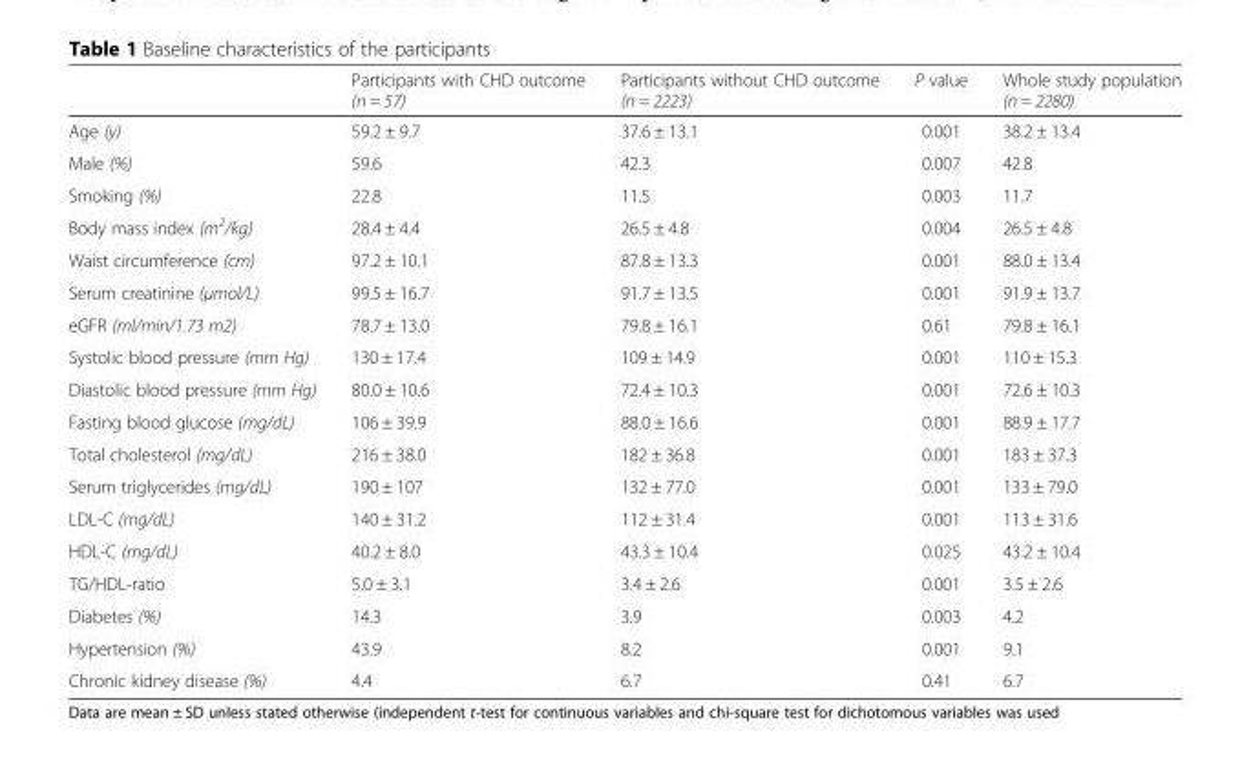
<table><thead><tr><td></td><td>Participants with CHD outcome (n = 57)</td><td>Participants without CHD outcome (n = 2223)</td><td>P value</td><td>Whole study population (n = 2280)</td></tr></thead><tbody><tr><td>Age (y)</td><td>59.2 ± 9.7</td><td>37.6 ± 13.1</td><td>0.001</td><td>38.2 ± 13.4</td></tr><tr><td>Male (%)</td><td>59.6</td><td>42.3</td><td>0.007</td><td>42.8</td></tr><tr><td>Smoking (%)</td><td>22.8</td><td>11.5</td><td>0.003</td><td>11.7</td></tr><tr><td>Body mass index (m<sup>2</sup>/kg)</td><td>28.4 ± 4.4</td><td>26.5 ± 4.8</td><td>0.004</td><td>26.5 ± 4.8</td></tr><tr><td>Waist circumference (cm)</td><td>97.2 ± 10.1</td><td>87.8 ± 13.3</td><td>0.001</td><td>88.0 ± 13.4</td></tr><tr><td>Serum creatinine (μmol/L)</td><td>99.5 ± 16.7</td><td>91.7 ± 13.5</td><td>0.001</td><td>91.9 ± 13.7</td></tr><tr><td>eGFR (ml/min/1.73 m2)</td><td>78.7 ± 13.0</td><td>79.8 ± 16.1</td><td>0.61</td><td>79.8 ± 16.1</td></tr><tr><td>Systolic blood pressure (mm Hg)</td><td>130 ± 17.4</td><td>109 ± 14.9</td><td>0.001</td><td>110 ± 15.3</td></tr><tr><td>Diastolic blood pressure (mm Hg)</td><td>80.0 ± 10.6</td><td>72.4 ± 10.3</td><td>0.001</td><td>72.6 ± 10.3</td></tr><tr><td>Fasting blood glucose (mg/dL)</td><td>106 ± 39.9</td><td>88.0 ± 16.6</td><td>0.001</td><td>88.9 ± 17.7</td></tr><tr><td>Total cholesterol (mg/dL)</td><td>216 ± 38.0</td><td>182 ± 36.8</td><td>0.001</td><td>183 ± 37.3</td></tr><tr><td>Serum triglycerides (mg/dL)</td><td>190 ± 107</td><td>132 ± 77.0</td><td>0.001</td><td>133 ± 79.0</td></tr><tr><td>LDL-C (mg/dL)</td><td>140 ± 31.2</td><td>112 ± 31.4</td><td>0.001</td><td>113 ± 31.6</td></tr><tr><td>HDL-C (mg/dL)</td><td>40.2 ± 8.0</td><td>43.3 ± 10.4</td><td>0.025</td><td>43.2 ± 10.4</td></tr><tr><td>TG/HDL-ratio</td><td>5.0 ± 3.1</td><td>3.4 ± 2.6</td><td>0.001</td><td>3.5 ± 2.6</td></tr><tr><td>Diabetes (%)</td><td>14.3</td><td>3.9</td><td>0.003</td><td>4.2</td></tr><tr><td>Hypertension (%)</td><td>43.9</td><td>8.2</td><td>0.001</td><td>9.1</td></tr><tr><td>Chronic kidney disease (%)</td><td>4.4</td><td>6.7</td><td>0.41</td><td>6.7</td></tr></tbody></table>